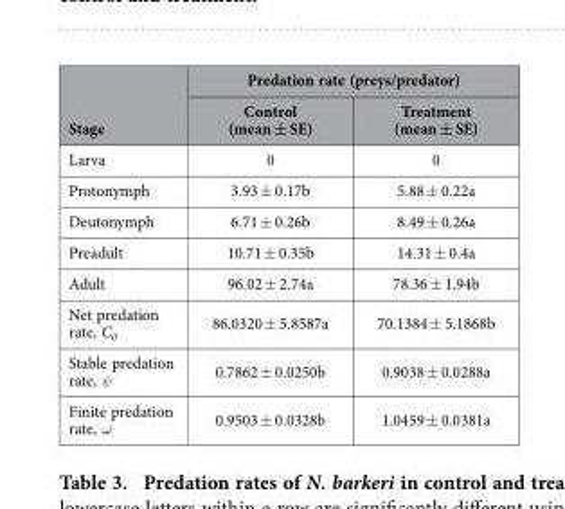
<table><thead><tr><td rowspan="2">Stage</td><td colspan="2">Predation rate (preys/predator)</td></tr><tr><td>Control (mean ± SE)</td><td>Treatment (mean ± SE)</td></tr></thead><tbody><tr><td>Larva</td><td>0</td><td>0</td></tr><tr><td>Protonymph</td><td>3.93 ± 0.17b</td><td>5.88 ± 0.22a</td></tr><tr><td>Deutonymph</td><td>6.71 ± 0.26b</td><td>8.49 ± 0.26a</td></tr><tr><td>Preadult</td><td>10.71 ± 0.35b</td><td>14.31 ± 0.4a</td></tr><tr><td>Adult</td><td>96.02 ± 2.74a</td><td>78.36 ± 1.94b</td></tr><tr><td>Net predation rate, C<sub>0</sub></td><td>86.0320 ± 5.8587a</td><td>70.1384 ± 5.1868b</td></tr><tr><td>Stable predation rate, ψ</td><td>0.7862 ± 0.0250b</td><td>0.9038 ± 0.0288a</td></tr><tr><td>Finite predation rate, ω</td><td>0.9503 ± 0.0328b</td><td>1.0459 ± 0.0381a</td></tr></tbody></table>